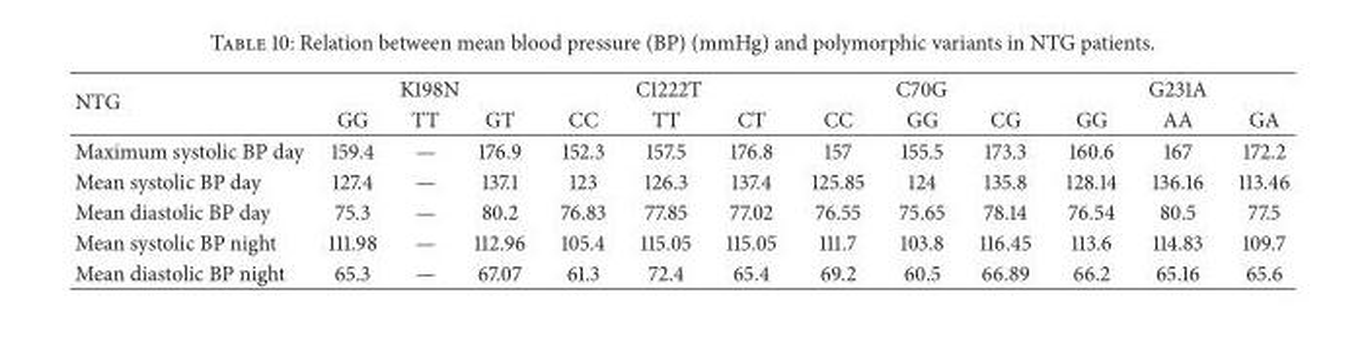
<table><thead><tr><td rowspan="2">NTG</td><td colspan="3">K198N</td><td colspan="3">C1222T</td><td colspan="3">C70G</td><td colspan="3">G231A</td></tr><tr><td>GG</td><td>TT</td><td>GT</td><td>CC</td><td>TT</td><td>CT</td><td>CC</td><td>GG</td><td>CG</td><td>GG</td><td>AA</td><td>GA</td></tr></thead><tbody><tr><td>Maximum systolic BP day</td><td>159.4</td><td>—</td><td>176.9</td><td>152.3</td><td>157.5</td><td>176.8</td><td>157</td><td>155.5</td><td>173.3</td><td>160.6</td><td>167</td><td>172.2</td></tr><tr><td>Mean systolic BP day</td><td>127.4</td><td>—</td><td>137.1</td><td>123</td><td>126.3</td><td>137.4</td><td>125.85</td><td>124</td><td>135.8</td><td>128.14</td><td>136.16</td><td>113.46</td></tr><tr><td>Mean diastolic BP day</td><td>75.3</td><td>—</td><td>80.2</td><td>76.83</td><td>77.85</td><td>77.02</td><td>76.55</td><td>75.65</td><td>78.14</td><td>76.54</td><td>80.5</td><td>77.5</td></tr><tr><td>Mean systolic BP night</td><td>111.98</td><td>—</td><td>112.96</td><td>105.4</td><td>115.05</td><td>115.05</td><td>111.7</td><td>103.8</td><td>116.45</td><td>113.6</td><td>114.83</td><td>109.7</td></tr><tr><td>Mean diastolic BP night</td><td>65.3</td><td>—</td><td>67.07</td><td>61.3</td><td>72.4</td><td>65.4</td><td>69.2</td><td>60.5</td><td>66.89</td><td>66.2</td><td>65.16</td><td>65.6</td></tr></tbody></table>